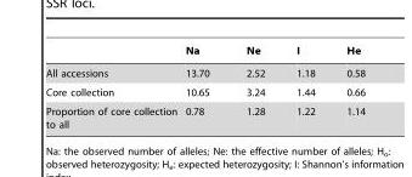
<table><thead><tr><td></td><td>Na</td><td>Ne</td><td>I</td><td>He</td></tr></thead><tbody><tr><td>All accessions</td><td>13.70</td><td>2.52</td><td>1.18</td><td>0.58</td></tr><tr><td>Core collection</td><td>10.65</td><td>3.24</td><td>1.44</td><td>0.66</td></tr><tr><td>Proportion of core collection to all</td><td>0.78</td><td>1.28</td><td>1.22</td><td>1.14</td></tr></tbody></table>